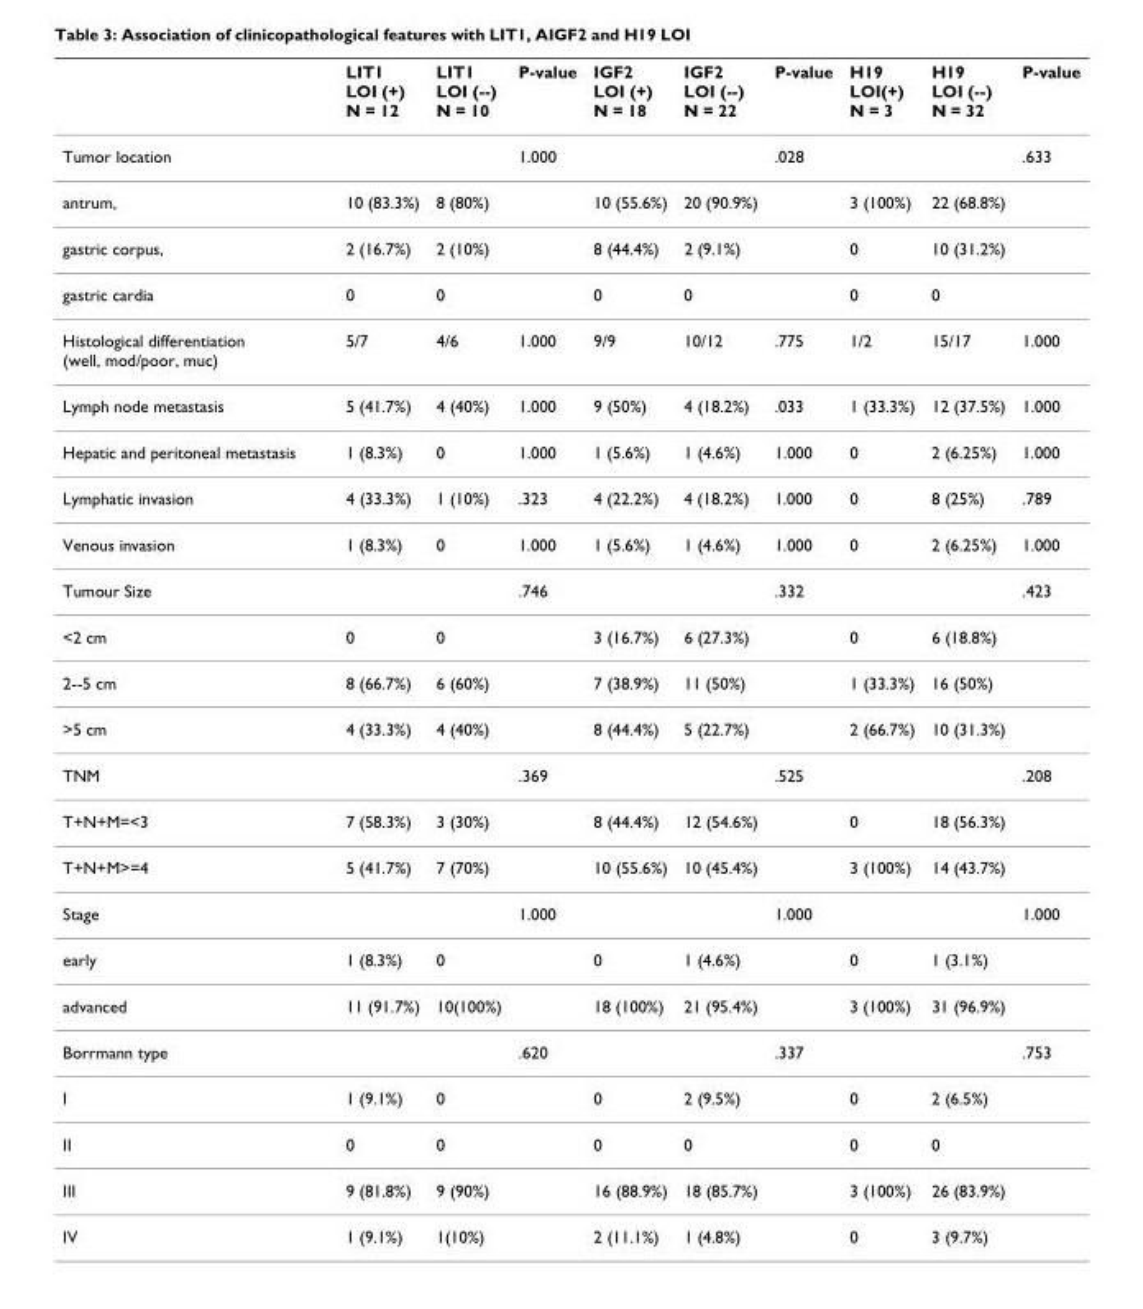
<table><thead><tr><td></td><td>LIT1 LOI (+) N = 12</td><td>LIT1 LOI (--) N = 10</td><td>P-value</td><td>IGF2 LOI (+) N = 18</td><td>IGF2 LOI (--) N = 22</td><td>P-value</td><td>H19 LOI(+) N = 3</td><td>H19 LOI (--) N = 32</td><td>P-value</td></tr></thead><tbody><tr><td>Tumor location</td><td></td><td></td><td>1.000</td><td></td><td></td><td>.028</td><td></td><td></td><td>.633</td></tr><tr><td>antrum,</td><td>10 (83.3%)</td><td>8 (80%)</td><td></td><td>10 (55.6%)</td><td>20 (90.9%)</td><td></td><td>3 (100%)</td><td>22 (68.8%)</td><td></td></tr><tr><td>gastric corpus,</td><td>2 (16.7%)</td><td>2 (10%)</td><td></td><td>8 (44.4%)</td><td>2 (9.1%)</td><td></td><td>0</td><td>10 (31.2%)</td><td></td></tr><tr><td>gastric cardia</td><td>0</td><td>0</td><td></td><td>0</td><td>0</td><td></td><td>0</td><td>0</td><td></td></tr><tr><td>Histological differentiation (well, mod/poor, muc)</td><td>5/7</td><td>4/6</td><td>1.000</td><td>9/9</td><td>10/12</td><td>.775</td><td>1/2</td><td>15/17</td><td>1.000</td></tr><tr><td>Lymph node metastasis</td><td>5 (41.7%)</td><td>4 (40%)</td><td>1.000</td><td>9 (50%)</td><td>4 (18.2%)</td><td>.033</td><td>1 (33.3%)</td><td>12 (37.5%)</td><td>1.000</td></tr><tr><td>Hepatic and peritoneal metastasis</td><td>1 (8.3%)</td><td>0</td><td>1.000</td><td>1 (5.6%)</td><td>1 (4.6%)</td><td>1.000</td><td>0</td><td>2 (6.25%)</td><td>1.000</td></tr><tr><td>Lymphatic invasion</td><td>4 (33.3%)</td><td>1 (10%)</td><td>.323</td><td>4 (22.2%)</td><td>4 (18.2%)</td><td>1.000</td><td>0</td><td>8 (25%)</td><td>.789</td></tr><tr><td>Venous invasion</td><td>1 (8.3%)</td><td>0</td><td>1.000</td><td>1 (5.6%)</td><td>1 (4.6%)</td><td>1.000</td><td>0</td><td>2 (6.25%)</td><td>1.000</td></tr><tr><td>Tumour Size</td><td></td><td></td><td>.746</td><td></td><td></td><td>.332</td><td></td><td></td><td>.423</td></tr><tr><td>&lt;2 cm</td><td>0</td><td>0</td><td></td><td>3 (16.7%)</td><td>6 (27.3%)</td><td></td><td>0</td><td>6 (18.8%)</td><td></td></tr><tr><td>2--5 cm</td><td>8 (66.7%)</td><td>6 (60%)</td><td></td><td>7 (38.9%)</td><td>11 (50%)</td><td></td><td>1 (33.3%)</td><td>16 (50%)</td><td></td></tr><tr><td>&gt;5 cm</td><td>4 (33.3%)</td><td>4 (40%)</td><td></td><td>8 (44.4%)</td><td>5 (22.7%)</td><td></td><td>2 (66.7%)</td><td>10 (31.3%)</td><td></td></tr><tr><td>TNM</td><td></td><td></td><td>.369</td><td></td><td></td><td>.525</td><td></td><td></td><td>.208</td></tr><tr><td>T+N+M=&lt;3</td><td>7 (58.3%)</td><td>3 (30%)</td><td></td><td>8 (44.4%)</td><td>12 (54.6%)</td><td></td><td>0</td><td>18 (56.3%)</td><td></td></tr><tr><td>T+N+M&gt;=4</td><td>5 (41.7%)</td><td>7 (70%)</td><td></td><td>10 (55.6%)</td><td>10 (45.4%)</td><td></td><td>3 (100%)</td><td>14 (43.7%)</td><td></td></tr><tr><td>Stage</td><td></td><td></td><td>1.000</td><td></td><td></td><td>1.000</td><td></td><td></td><td>1.000</td></tr><tr><td>early</td><td>1 (8.3%)</td><td>0</td><td></td><td>0</td><td>1 (4.6%)</td><td></td><td>0</td><td>1 (3.1%)</td><td></td></tr><tr><td>advanced</td><td>11 (91.7%)</td><td>10(100%)</td><td></td><td>18 (100%)</td><td>21 (95.4%)</td><td></td><td>3 (100%)</td><td>31 (96.9%)</td><td></td></tr><tr><td>Borrmann type</td><td></td><td></td><td>.620</td><td></td><td></td><td>.337</td><td></td><td></td><td>.753</td></tr><tr><td>I</td><td>1 (9.1%)</td><td>0</td><td></td><td>0</td><td>2 (9.5%)</td><td></td><td>0</td><td>2 (6.5%)</td><td></td></tr><tr><td>II</td><td>0</td><td>0</td><td></td><td>0</td><td>0</td><td></td><td>0</td><td>0</td><td></td></tr><tr><td>III</td><td>9 (81.8%)</td><td>9 (90%)</td><td></td><td>16 (88.9%)</td><td>18 (85.7%)</td><td></td><td>3 (100%)</td><td>26 (83.9%)</td><td></td></tr><tr><td>IV</td><td>1 (9.1%)</td><td>1(10%)</td><td></td><td>2 (11.1%)</td><td>1 (4.8%)</td><td></td><td>0</td><td>3 (9.7%)</td><td></td></tr></tbody></table>